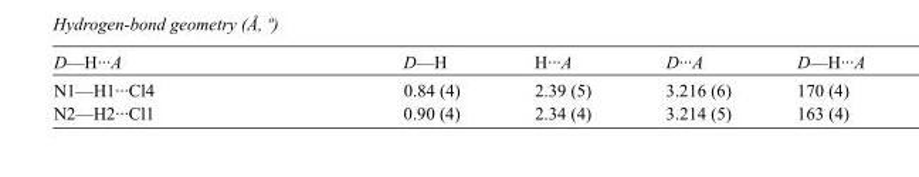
<table><tbody><tr><td>D—H···A</td><td>D—H</td><td>H···A</td><td>D···A</td><td>D—H···A</td></tr><tr><td>N1—H1···Cl4</td><td>0.84 (4)</td><td>2.39 (5)</td><td>3.216 (6)</td><td>170 (4)</td></tr><tr><td>N2—H2···Cl1</td><td>0.90 (4)</td><td>2.34 (4)</td><td>3.214 (5)</td><td>163 (4)</td></tr></tbody></table>